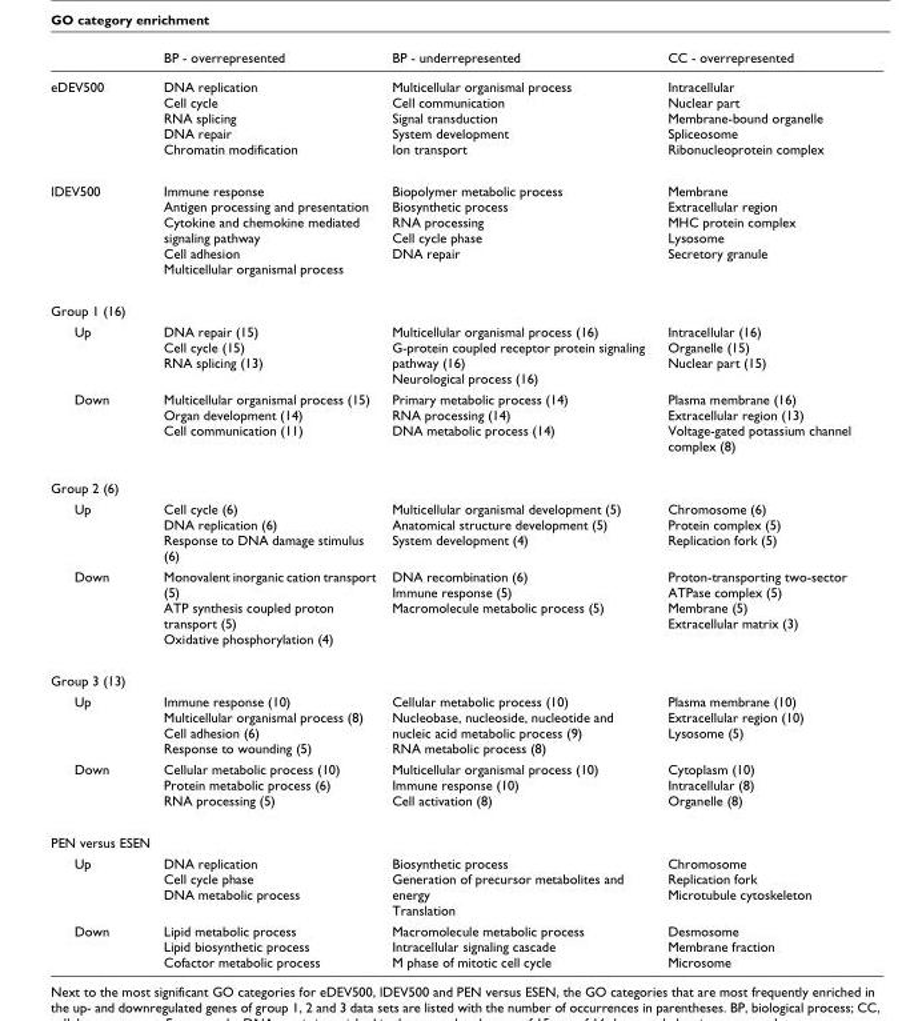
<table><thead><tr><td></td><td>BP - overrepresented</td><td>BP - underrepresented</td><td>CC - overrepresented</td></tr></thead><tbody><tr><td>eDEV500</td><td>DNA replication Cell cycle RNA splicing DNA repair Chromatin modification</td><td>Multicellular organismal process Cell communication Signal transduction System development Ion transport</td><td>Intracellular Nuclear part Membrane-bound organelle Spliceosome Ribonucleoprotein complex</td></tr><tr><td>lDEV500</td><td>Immune response Antigen processing and presentation Cytokine and chemokine mediated signaling pathway Cell adhesion Multicellular organismal process</td><td>Biopolymer metabolic process Biosynthetic process RNA processing Cell cycle phase DNA repair</td><td>Membrane Extracellular region MHC protein complex Lysosome Secretory granule</td></tr><tr><td colspan="4">Group 1 (16)</td></tr><tr><td>Up</td><td>DNA repair (15) Cell cycle (15) RNA splicing (13)</td><td>Multicellular organismal process (16) G-protein coupled receptor protein signaling pathway (16) Neurological process (16)</td><td>Intracellular (16) Organelle (15) Nuclear part (15)</td></tr><tr><td>Down</td><td>Multicellular organismal process (15) Organ development (14) Cell communication (11)</td><td>Primary metabolic process (14) RNA processing (14) DNA metabolic process (14)</td><td>Plasma membrane (16) Extracellular region (13) Voltage-gated potassium channel complex (8)</td></tr><tr><td colspan="4">Group 2 (6)</td></tr><tr><td>Up</td><td>Cell cycle (6) DNA replication (6) Response to DNA damage stimulus (6)</td><td>Multicellular organismal development (5) Anatomical structure development (5) System development (4)</td><td>Chromosome (6) Protein complex (5) Replication fork (5)</td></tr><tr><td>Down</td><td>Monovalent inorganic cation transport (5) ATP synthesis coupled proton transport (5) Oxidative phosphorylation (4)</td><td>DNA recombination (6) Immune response (5) Macromolecule metabolic process (5)</td><td>Proton-transporting two-sector ATPase complex (5) Membrane (5) Extracellular matrix (3)</td></tr><tr><td colspan="4">Group 3 (13)</td></tr><tr><td>Up</td><td>Immune response (10) Multicellular organismal process (8) Cell adhesion (6) Response to wounding (5)</td><td>Cellular metabolic process (10) Nucleobase, nucleoside, nucleotide and nucleic acid metabolic process (9) RNA metabolic process (8)</td><td>Plasma membrane (10) Extracellular region (10) Lysosome (5)</td></tr><tr><td>Down</td><td>Cellular metabolic process (10) Protein metabolic process (6) RNA processing (5)</td><td>Multicellular organismal process (10) Immune response (10) Cell activation (8)</td><td>Cytoplasm (10) Intracellular (8) Organelle (8)</td></tr><tr><td colspan="4">PEN versus ESEN</td></tr><tr><td>Up</td><td>DNA replication Cell cycle phase DNA metabolic process</td><td>Biosynthetic process Generation of precursor metabolites and energy Translation</td><td>Chromosome Replication fork Microtubule cytoskeleton</td></tr><tr><td>Down</td><td>Lipid metabolic process Lipid biosynthetic process Cofactor metabolic process</td><td>Macromolecule metabolic process Intracellular signaling cascade M phase of mitotic cell cycle</td><td>Desmosome Membrane fraction Microsome</td></tr></tbody></table>